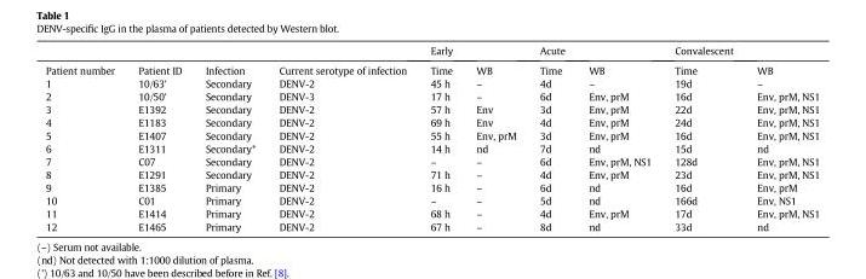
<table><thead><tr><td></td><td></td><td></td><td></td><td>Early</td><td></td><td>Acute</td><td></td><td>Convalescent</td><td></td></tr></thead><tbody><tr><td>Patient number</td><td>Patient ID</td><td>Infection</td><td>Current serotype of infection</td><td>Time</td><td>WB</td><td>Time</td><td>WB</td><td>Time</td><td>WB</td></tr><tr><td>1</td><td>10/63&#x27;</td><td>Secondary</td><td>DENV-2</td><td>45 h</td><td>–</td><td>4d</td><td>–</td><td>19d</td><td>–</td></tr><tr><td>2</td><td>10/50&#x27;</td><td>Secondary</td><td>DENV-3</td><td>17 h</td><td>–</td><td>6d</td><td>Env, prM</td><td>16d</td><td>Env, prM, NS1</td></tr><tr><td>3</td><td>E1392</td><td>Secondary</td><td>DENV-2</td><td>57 h</td><td>Env</td><td>3d</td><td>Env, prM</td><td>22d</td><td>Env, prM, NS1</td></tr><tr><td>4</td><td>E1183</td><td>Secondary</td><td>DENV-2</td><td>69 h</td><td>Env</td><td>4d</td><td>Env, prM</td><td>24d</td><td>Env, prM, NS1</td></tr><tr><td>5</td><td>E1407</td><td>Secondary</td><td>DENV-2</td><td>55 h</td><td>Env, prM</td><td>3d</td><td>Env, prM</td><td>16d</td><td>Env, prM, NS1</td></tr><tr><td>6</td><td>E1311</td><td>Secondary*</td><td>DENV-2</td><td>14 h</td><td>nd</td><td>7d</td><td>nd</td><td>15d</td><td>nd</td></tr><tr><td>7</td><td>C07</td><td>Secondary</td><td>DENV-2</td><td>–</td><td>–</td><td>6d</td><td>Env, prM, NS1</td><td>128d</td><td>Env, prM, NS1</td></tr><tr><td>8</td><td>E1291</td><td>Secondary</td><td>DENV-2</td><td>71 h</td><td>–</td><td>4d</td><td>Env, prM</td><td>23d</td><td>Env, prM, NS1</td></tr><tr><td>9</td><td>E1385</td><td>Primary</td><td>DENV-2</td><td>16 h</td><td>–</td><td>6d</td><td>nd</td><td>16d</td><td>Env, prM</td></tr><tr><td>10</td><td>C01</td><td>Primary</td><td>DENV-2</td><td>–</td><td>–</td><td>5d</td><td>nd</td><td>166d</td><td>Env, NS1</td></tr><tr><td>11</td><td>E1414</td><td>Primary</td><td>DENV-2</td><td>68 h</td><td>–</td><td>4d</td><td>Env, prM</td><td>17d</td><td>Env, prM, NS1</td></tr><tr><td>12</td><td>E1465</td><td>Primary</td><td>DENV-2</td><td>67 h</td><td>–</td><td>8d</td><td>nd</td><td>33d</td><td>nd</td></tr></tbody></table>